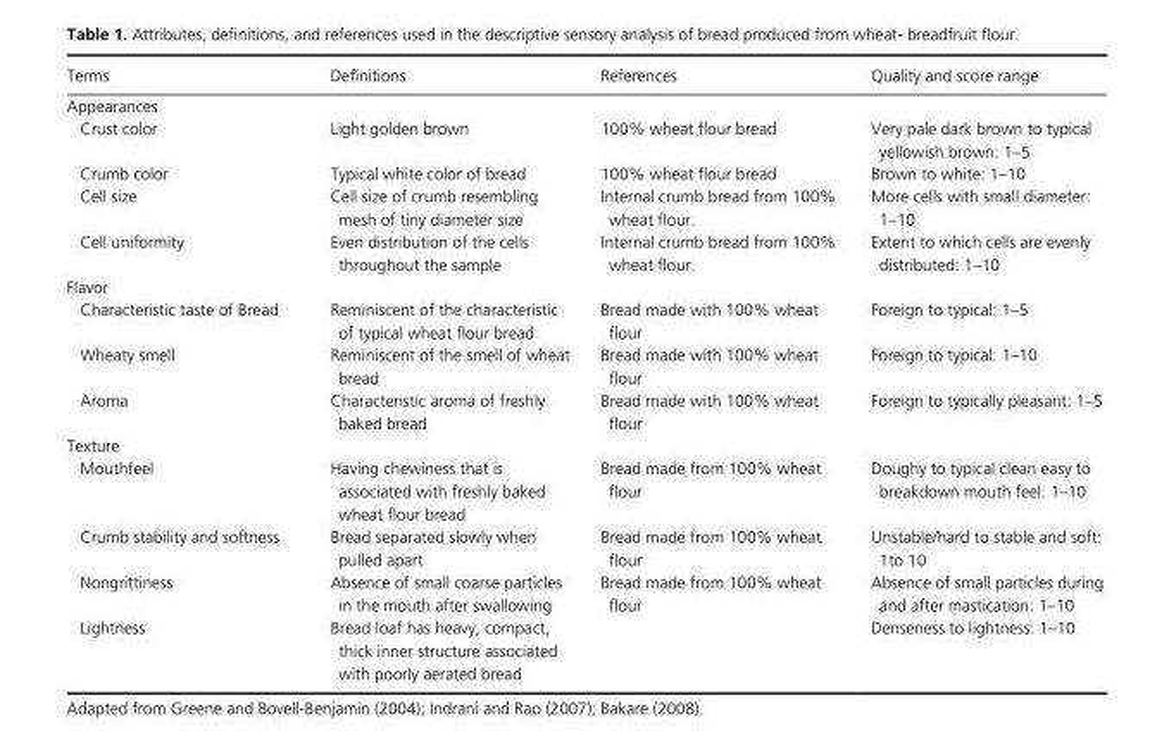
<table><thead><tr><td>Terms</td><td>Definitions</td><td>References</td><td>Quality and score range</td></tr></thead><tbody><tr><td colspan="4">Appearances</td></tr><tr><td>Crust color</td><td>Light golden brown</td><td>100% wheat flour bread</td><td>Very pale dark brown to typical yellowish brown: 1–5</td></tr><tr><td>Crumb color</td><td>Typical white color of bread</td><td>100% wheat flour bread</td><td>Brown to white: 1–10</td></tr><tr><td>Cell size</td><td>Cell size of crumb resembling mesh of tiny diameter size</td><td>Internal crumb bread from 100% wheat flour.</td><td>More cells with small diameter: 1–10</td></tr><tr><td>Cell uniformity</td><td>Even distribution of the cells throughout the sample</td><td>Internal crumb bread from 100% wheat flour.</td><td>Extent to which cells are evenly distributed: 1–10</td></tr><tr><td colspan="4">Flavor</td></tr><tr><td>Characteristic taste of Bread</td><td>Reminiscent of the characteristic of typical wheat flour bread</td><td>Bread made with 100% wheat flour</td><td>Foreign to typical: 1–5</td></tr><tr><td>Wheaty smell</td><td>Reminiscent of the smell of wheat bread</td><td>Bread made with 100% wheat flour</td><td>Foreign to typical: 1–10</td></tr><tr><td>Aroma</td><td>Characteristic aroma of freshly baked bread</td><td>Bread made with 100% wheat flour</td><td>Foreign to typically pleasant: 1–5</td></tr><tr><td colspan="4">Texture</td></tr><tr><td>Mouthfeel</td><td>Having chewiness that is associated with freshly baked wheat flour bread</td><td>Bread made from 100% wheat flour</td><td>Doughy to typical clean easy to breakdown mouth feel: 1–10</td></tr><tr><td>Crumb stability and softness</td><td>Bread separated slowly when pulled apart</td><td>Bread made from 100% wheat flour</td><td>Unstable/hard to stable and soft: 1to 10</td></tr><tr><td>Nongrittiness</td><td>Absence of small coarse particles in the mouth after swallowing</td><td>Bread made from 100% wheat flour</td><td>Absence of small particles during and after mastication: 1–10</td></tr><tr><td>Lightness</td><td>Bread loaf has heavy, compact, thick inner structure associated with poorly aerated bread</td><td></td><td>Denseness to lightness: 1–10</td></tr></tbody></table>